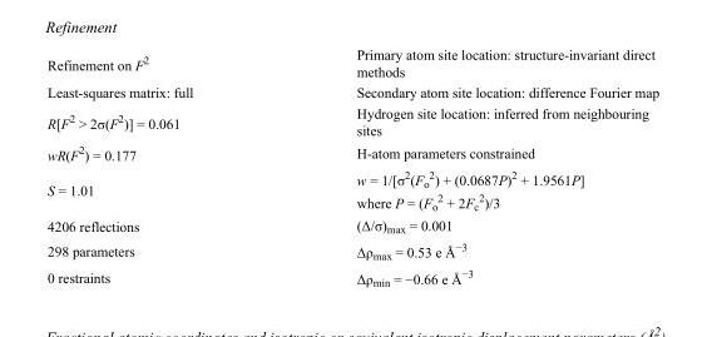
<table><tbody><tr><td>Refinement on F<sup>2</sup></td><td>Primary atom site location: structure-invariant direct methods</td></tr><tr><td>Least-squares matrix: full</td><td>Secondary atom site location: difference Fourier map</td></tr><tr><td>R[F<sup>2</sup> &gt; 2σ(F<sup>2</sup>)] = 0.061</td><td>Hydrogen site location: inferred from neighbouring sites</td></tr><tr><td>wR(F<sup>2</sup>) = 0.177</td><td>H-atom parameters constrained</td></tr><tr><td>S = 1.01</td><td>w = 1/[σ<sup>2</sup>(F<sub>o</sub> <sup>2</sup>) + (0.0687P)<sup>2</sup> + 1.9561P] where P = (F<sub>o</sub> <sup>2</sup> + 2F<sub>c</sub> <sup>2</sup>)/3</td></tr><tr><td>4206 reflections</td><td>(Δ/σ)<sub>max</sub> = 0.001</td></tr><tr><td>298 parameters</td><td>Δρ<sub>max</sub> = 0.53 e Å<sup>−3</sup></td></tr><tr><td>0 restraints</td><td>Δρ<sub>min</sub> = −0.66 e Å<sup>−3</sup></td></tr></tbody></table>